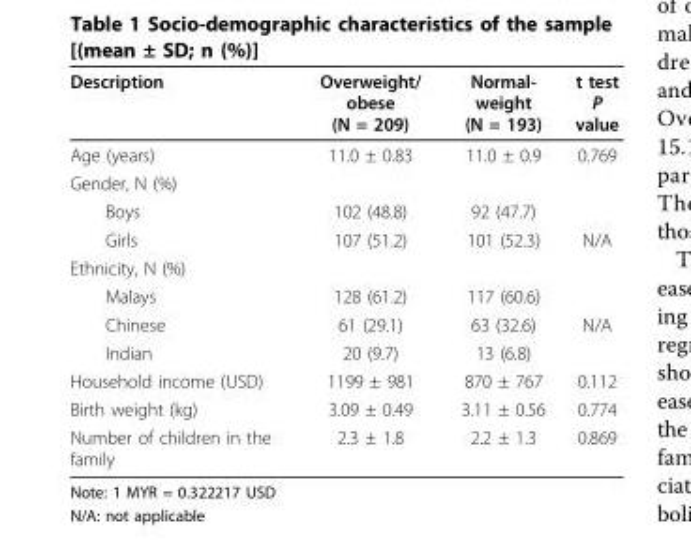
<table><thead><tr><td>Description</td><td>Overweight/ obese (N = 209)</td><td>Normal- weight (N = 193)</td><td>t test P value</td></tr></thead><tbody><tr><td>Age (years)</td><td>11.0 ± 0.83</td><td>11.0 ± 0.9</td><td>0.769</td></tr><tr><td colspan="4">Gender, N (%)</td></tr><tr><td>Boys</td><td>102 (48.8)</td><td>92 (47.7)</td><td></td></tr><tr><td>Girls</td><td>107 (51.2)</td><td>101 (52.3)</td><td>N/A</td></tr><tr><td colspan="4">Ethnicity, N (%)</td></tr><tr><td>Malays</td><td>128 (61.2)</td><td>117 (60.6)</td><td></td></tr><tr><td>Chinese</td><td>61 (29.1)</td><td>63 (32.6)</td><td>N/A</td></tr><tr><td>Indian</td><td>20 (9.7)</td><td>13 (6.8)</td><td></td></tr><tr><td>Household income (USD)</td><td>1199 ± 981</td><td>870 ± 767</td><td>0.112</td></tr><tr><td>Birth weight (kg)</td><td>3.09 ± 0.49</td><td>3.11 ± 0.56</td><td>0.774</td></tr><tr><td>Number of children in the family</td><td>2.3 ± 1.8</td><td>2.2 ± 1.3</td><td>0.869</td></tr></tbody></table>